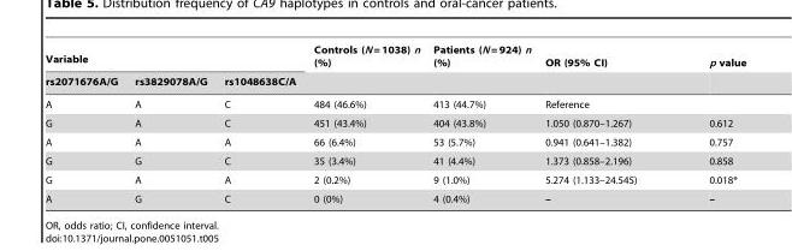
<table><thead><tr><td colspan="3">Variable</td><td rowspan="2">Controls (N = 1038) n (%)</td><td rowspan="2">Patients (N = 924) n (%)</td><td rowspan="2">OR (95% CI)</td><td rowspan="2">p value</td></tr><tr><td>rs2071676A/G</td><td>rs3829078A/G</td><td>rs1048638C/A</td></tr></thead><tbody><tr><td>A</td><td>A</td><td>C</td><td>484 (46.6%)</td><td>413 (44.7%)</td><td>Reference</td><td></td></tr><tr><td>G</td><td>A</td><td>C</td><td>451 (43.4%)</td><td>404 (43.8%)</td><td>1.050 (0.870–1.267)</td><td>0.612</td></tr><tr><td>A</td><td>A</td><td>A</td><td>66 (6.4%)</td><td>53 (5.7%)</td><td>0.941 (0.641–1.382)</td><td>0.757</td></tr><tr><td>G</td><td>G</td><td>C</td><td>35 (3.4%)</td><td>41 (4.4%)</td><td>1.373 (0.858–2.196)</td><td>0.858</td></tr><tr><td>G</td><td>A</td><td>A</td><td>2 (0.2%)</td><td>9 (1.0%)</td><td>5.274 (1.133–24.545)</td><td>0.018*</td></tr><tr><td>A</td><td>G</td><td>C</td><td>0 (0%)</td><td>4 (0.4%)</td><td>–</td><td>–</td></tr></tbody></table>